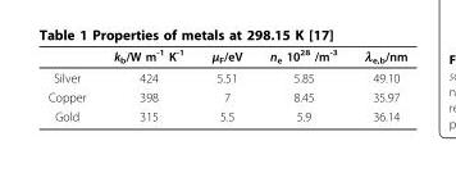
<table><thead><tr><td></td><td>k<sub>b</sub>/W m<sup>-1</sup> K<sup>-1</sup></td><td>μ<sub>F</sub>/eV</td><td>n<sub>e</sub> 10<sup>28</sup> /m<sup>-3</sup></td><td>λ<sub>e,b</sub>/nm</td></tr></thead><tbody><tr><td>Silver</td><td>424</td><td>5.51</td><td>5.85</td><td>49.10</td></tr><tr><td>Copper</td><td>398</td><td>7</td><td>8.45</td><td>35.97</td></tr><tr><td>Gold</td><td>315</td><td>5.5</td><td>5.9</td><td>36.14</td></tr></tbody></table>